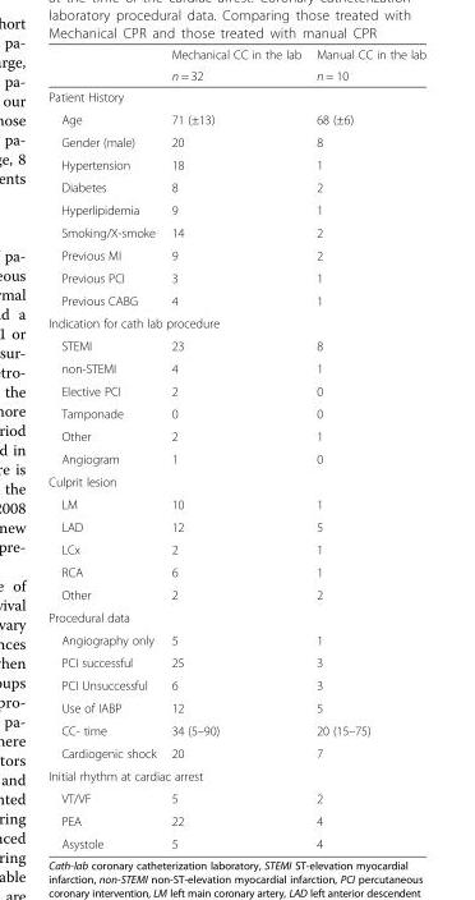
<table><thead><tr><td rowspan="2"></td><td rowspan="2">Mechanical CC in the lab n = 32</td><td rowspan="2">Manual CC in the lab n = 10</td></tr><tr></tr></thead><tbody><tr><td colspan="3">Patient History</td></tr><tr><td>Age</td><td>71 (±13)</td><td>68 (±6)</td></tr><tr><td>Gender (male)</td><td>20</td><td>8</td></tr><tr><td>Hypertension</td><td>18</td><td>1</td></tr><tr><td>Diabetes</td><td>8</td><td>2</td></tr><tr><td>Hyperlipidemia</td><td>9</td><td>1</td></tr><tr><td>Smoking/X-smoke</td><td>14</td><td>2</td></tr><tr><td>Previous MI</td><td>9</td><td>2</td></tr><tr><td>Previous PCI</td><td>3</td><td>1</td></tr><tr><td>Previous CABG</td><td>4</td><td>1</td></tr><tr><td colspan="3">Indication for cath lab procedure</td></tr><tr><td>STEMI</td><td>23</td><td>8</td></tr><tr><td>non-STEMI</td><td>4</td><td>1</td></tr><tr><td>Elective PCI</td><td>2</td><td>0</td></tr><tr><td>Tamponade</td><td>0</td><td>0</td></tr><tr><td>Other</td><td>2</td><td>1</td></tr><tr><td>Angiogram</td><td>1</td><td>0</td></tr><tr><td colspan="3">Culprit lesion</td></tr><tr><td>LM</td><td>10</td><td>1</td></tr><tr><td>LAD</td><td>12</td><td>5</td></tr><tr><td>LCx</td><td>2</td><td>1</td></tr><tr><td>RCA</td><td>6</td><td>1</td></tr><tr><td>Other</td><td>2</td><td>2</td></tr><tr><td colspan="3">Procedural data</td></tr><tr><td>Angiography only</td><td>5</td><td>1</td></tr><tr><td>PCI successful</td><td>25</td><td>3</td></tr><tr><td>PCI Unsuccessful</td><td>6</td><td>3</td></tr><tr><td>Use of IABP</td><td>12</td><td>5</td></tr><tr><td>CC- time</td><td>34 (5–90)</td><td>20 (15–75)</td></tr><tr><td>Cardiogenic shock</td><td>20</td><td>7</td></tr><tr><td colspan="3">Initial rhythm at cardiac arrest</td></tr><tr><td>VT/VF</td><td>5</td><td>2</td></tr><tr><td>PEA</td><td>22</td><td>4</td></tr><tr><td>Asystole</td><td>5</td><td>4</td></tr></tbody></table>